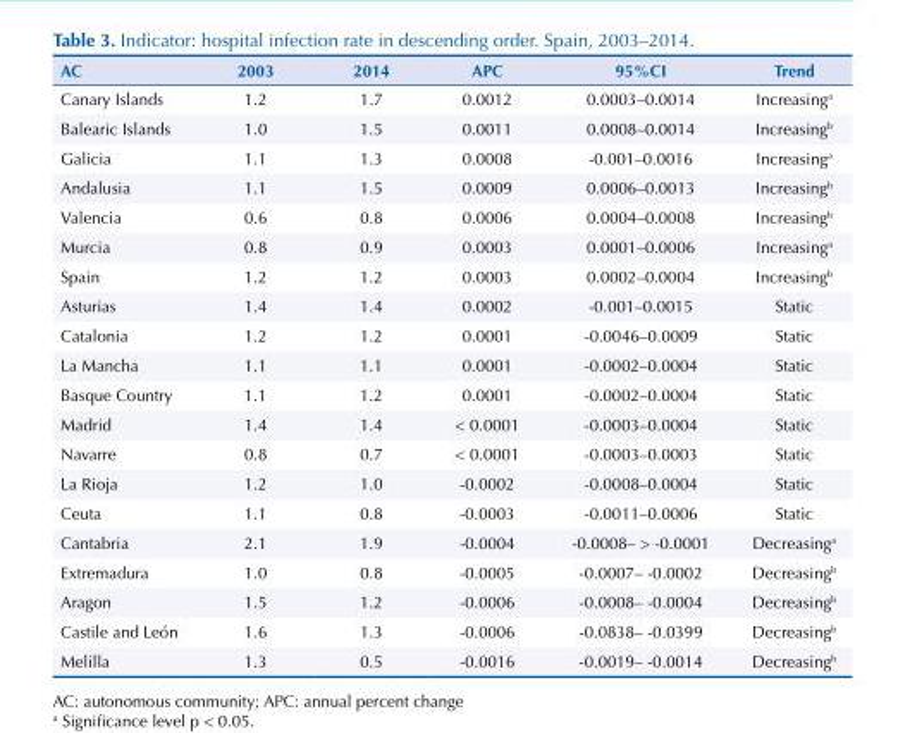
<table><thead><tr><td>AC</td><td>2003</td><td>2014</td><td>APC</td><td>95%CI</td><td>Trend</td></tr></thead><tbody><tr><td>Canary Islands</td><td>1.2</td><td>1.7</td><td>0.0012</td><td>0.0003–0.0014</td><td>Increasing<sup>a</sup></td></tr><tr><td>Balearic Islands</td><td>1.0</td><td>1.5</td><td>0.0011</td><td>0.0008–0.0014</td><td>Increasing<sup>b</sup></td></tr><tr><td>Galicia</td><td>1.1</td><td>1.3</td><td>0.0008</td><td>-0.001–0.0016</td><td>Increasing<sup>a</sup></td></tr><tr><td>Andalusia</td><td>1.1</td><td>1.5</td><td>0.0009</td><td>0.0006–0.0013</td><td>Increasing<sup>b</sup></td></tr><tr><td>Valencia</td><td>0.6</td><td>0.8</td><td>0.0006</td><td>0.0004–0.0008</td><td>Increasing<sup>b</sup></td></tr><tr><td>Murcia</td><td>0.8</td><td>0.9</td><td>0.0003</td><td>0.0001–0.0006</td><td>Increasing<sup>a</sup></td></tr><tr><td>Spain</td><td>1.2</td><td>1.2</td><td>0.0003</td><td>0.0002–0.0004</td><td>Increasing<sup>b</sup></td></tr><tr><td>Asturias</td><td>1.4</td><td>1.4</td><td>0.0002</td><td>-0.001–0.0015</td><td>Static</td></tr><tr><td>Catalonia</td><td>1.2</td><td>1.2</td><td>0.0001</td><td>-0.0046–0.0009</td><td>Static</td></tr><tr><td>La Mancha</td><td>1.1</td><td>1.1</td><td>0.0001</td><td>-0.0002–0.0004</td><td>Static</td></tr><tr><td>Basque Country</td><td>1.1</td><td>1.2</td><td>0.0001</td><td>-0.0002–0.0004</td><td>Static</td></tr><tr><td>Madrid</td><td>1.4</td><td>1.4</td><td>&lt; 0.0001</td><td>-0.0003–0.0004</td><td>Static</td></tr><tr><td>Navarre</td><td>0.8</td><td>0.7</td><td>&lt; 0.0001</td><td>-0.0003–0.0003</td><td>Static</td></tr><tr><td>La Rioja</td><td>1.2</td><td>1.0</td><td>-0.0002</td><td>-0.0008–0.0004</td><td>Static</td></tr><tr><td>Ceuta</td><td>1.1</td><td>0.8</td><td>-0.0003</td><td>-0.0011–0.0006</td><td>Static</td></tr><tr><td>Cantabria</td><td>2.1</td><td>1.9</td><td>-0.0004</td><td>-0.0008– &gt; -0.0001</td><td>Decreasing<sup>a</sup></td></tr><tr><td>Extremadura</td><td>1.0</td><td>0.8</td><td>-0.0005</td><td>-0.0007– -0.0002</td><td>Decreasing<sup>b</sup></td></tr><tr><td>Aragon</td><td>1.5</td><td>1.2</td><td>-0.0006</td><td>-0.0008– -0.0004</td><td>Decreasing<sup>b</sup></td></tr><tr><td>Castile and León</td><td>1.6</td><td>1.3</td><td>-0.0006</td><td>-0.0838– -0.0399</td><td>Decreasing<sup>b</sup></td></tr><tr><td>Melilla</td><td>1.3</td><td>0.5</td><td>-0.0016</td><td>-0.0019– -0.0014</td><td>Decreasing<sup>b</sup></td></tr></tbody></table>